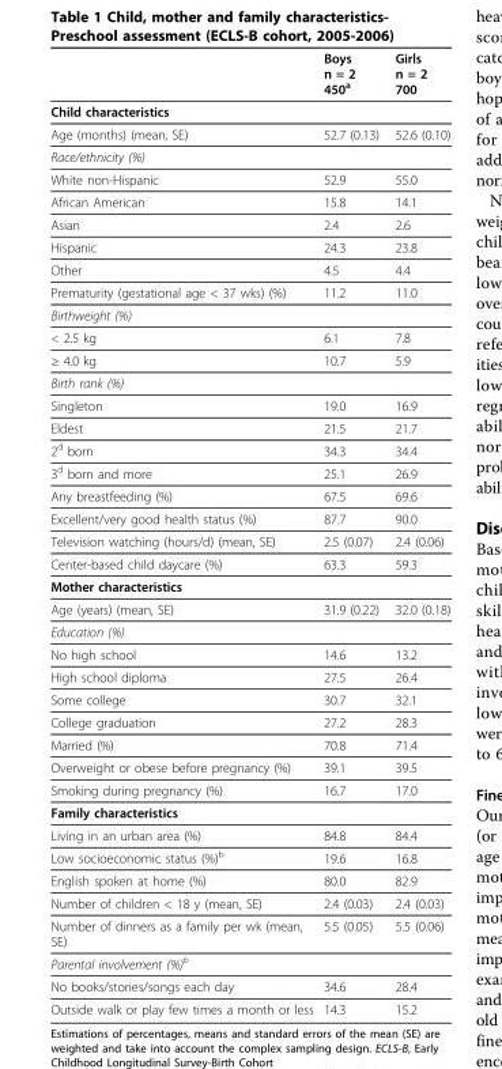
<table><thead><tr><td></td><td>Boys n = 2 450<sup>a</sup></td><td>Girls n = 2 700</td></tr></thead><tbody><tr><td colspan="3">Child characteristics</td></tr><tr><td>Age (months) (mean, SE)</td><td>52.7 (0.13)</td><td>52.6 (0.10)</td></tr><tr><td colspan="3">Race/ethnicity (%)</td></tr><tr><td>White non-Hispanic</td><td>52.9</td><td>55.0</td></tr><tr><td>African American</td><td>15.8</td><td>14.1</td></tr><tr><td>Asian</td><td>2.4</td><td>2.6</td></tr><tr><td>Hispanic</td><td>24.3</td><td>23.8</td></tr><tr><td>Other</td><td>4.5</td><td>4.4</td></tr><tr><td>Prematurity (gestational age &lt; 37 wks) (%)</td><td>11.2</td><td>11.0</td></tr><tr><td colspan="3">Birthweight (%)</td></tr><tr><td>&lt; 2.5 kg</td><td>6.1</td><td>7.8</td></tr><tr><td>≥ 4.0 kg</td><td>10.7</td><td>5.9</td></tr><tr><td colspan="3">Birth rank (%)</td></tr><tr><td>Singleton</td><td>19.0</td><td>16.9</td></tr><tr><td>Eldest</td><td>21.5</td><td>21.7</td></tr><tr><td>2<sup>d</sup> born</td><td>34.3</td><td>34.4</td></tr><tr><td>3<sup>d</sup> born and more</td><td>25.1</td><td>26.9</td></tr><tr><td>Any breastfeeding (%)</td><td>67.5</td><td>69.6</td></tr><tr><td>Excellent/very good health status (%)</td><td>87.7</td><td>90.0</td></tr><tr><td>Television watching (hours/d) (mean, SE)</td><td>2.5 (0.07)</td><td>2.4 (0.06)</td></tr><tr><td>Center-based child daycare (%)</td><td>63.3</td><td>59.3</td></tr><tr><td colspan="3">Mother characteristics</td></tr><tr><td>Age (years) (mean, SE)</td><td>31.9 (0.22)</td><td>32.0 (0.18)</td></tr><tr><td colspan="3">Education (%)</td></tr><tr><td>No high school</td><td>14.6</td><td>13.2</td></tr><tr><td>High school diploma</td><td>27.5</td><td>26.4</td></tr><tr><td>Some college</td><td>30.7</td><td>32.1</td></tr><tr><td>College graduation</td><td>27.2</td><td>28.3</td></tr><tr><td>Married (%)</td><td>70.8</td><td>71.4</td></tr><tr><td>Overweight or obese before pregnancy (%)</td><td>39.1</td><td>39.5</td></tr><tr><td>Smoking during pregnancy (%)</td><td>16.7</td><td>17.0</td></tr><tr><td colspan="3">Family characteristics</td></tr><tr><td>Living in an urban area (%)</td><td>84.8</td><td>84.4</td></tr><tr><td>Low socioeconomic status (%)<sup>b</sup></td><td>19.6</td><td>16.8</td></tr><tr><td>English spoken at home (%)</td><td>80.0</td><td>82.9</td></tr><tr><td>Number of children &lt; 18 y (mean, SE)</td><td>2.4 (0.03)</td><td>2.4 (0.03)</td></tr><tr><td>Number of dinners as a family per wk (mean, SE)</td><td>5.5 (0.05)</td><td>5.5 (0.06)</td></tr><tr><td colspan="3">Parental involvement (%)<sup>b</sup></td></tr><tr><td>No books/stories/songs each day</td><td>34.6</td><td>28.4</td></tr><tr><td>Outside walk or play few times a month or less</td><td>14.3</td><td>15.2</td></tr></tbody></table>